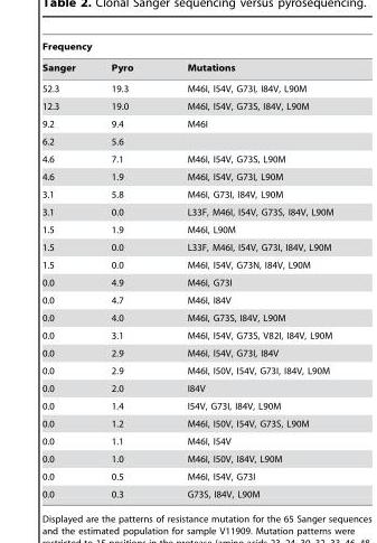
<table><thead><tr><td colspan="3">Frequency</td></tr><tr><td>Sanger</td><td>Pyro</td><td>Mutations</td></tr></thead><tbody><tr><td>52.3</td><td>19.3</td><td>M46I, I54V, G73I, I84V, L90M</td></tr><tr><td>12.3</td><td>19.0</td><td>M46I, I54V, G73S, I84V, L90M</td></tr><tr><td>9.2</td><td>9.4</td><td>M46I</td></tr><tr><td>6.2</td><td>5.6</td><td></td></tr><tr><td>4.6</td><td>7.1</td><td>M46I, I54V, G73S, L90M</td></tr><tr><td>4.6</td><td>1.9</td><td>M46I, I54V, G73I, L90M</td></tr><tr><td>3.1</td><td>5.8</td><td>M46I, G73I, I84V, L90M</td></tr><tr><td>3.1</td><td>0.0</td><td>L33F, M46I, I54V, G73S, I84V, L90M</td></tr><tr><td>1.5</td><td>1.9</td><td>M46I, L90M</td></tr><tr><td>1.5</td><td>0.0</td><td>L33F, M46I, I54V, G73I, I84V, L90M</td></tr><tr><td>1.5</td><td>0.0</td><td>M46I, I54V, G73N, I84V, L90M</td></tr><tr><td>0.0</td><td>4.9</td><td>M46I, G73I</td></tr><tr><td>0.0</td><td>4.7</td><td>M46I, I84V</td></tr><tr><td>0.0</td><td>4.0</td><td>M46I, G73S, I84V, L90M</td></tr><tr><td>0.0</td><td>3.1</td><td>M46I, I54V, G73S, V82I, I84V, L90M</td></tr><tr><td>0.0</td><td>2.9</td><td>M46I, I54V, G73I, I84V</td></tr><tr><td>0.0</td><td>2.9</td><td>M46I, I50V, I54V, G73I, I84V, L90M</td></tr><tr><td>0.0</td><td>2.0</td><td>I84V</td></tr><tr><td>0.0</td><td>1.4</td><td>I54V, G73I, I84V, L90M</td></tr><tr><td>0.0</td><td>1.2</td><td>M46I, I50V, I54V, G73S, L90M</td></tr><tr><td>0.0</td><td>1.1</td><td>M46I, I54V</td></tr><tr><td>0.0</td><td>1.0</td><td>M46I, I50V, I84V, L90M</td></tr><tr><td>0.0</td><td>0.5</td><td>M46I, I54V, G73I</td></tr><tr><td>0.0</td><td>0.3</td><td>G73S, I84V, L90M</td></tr></tbody></table>